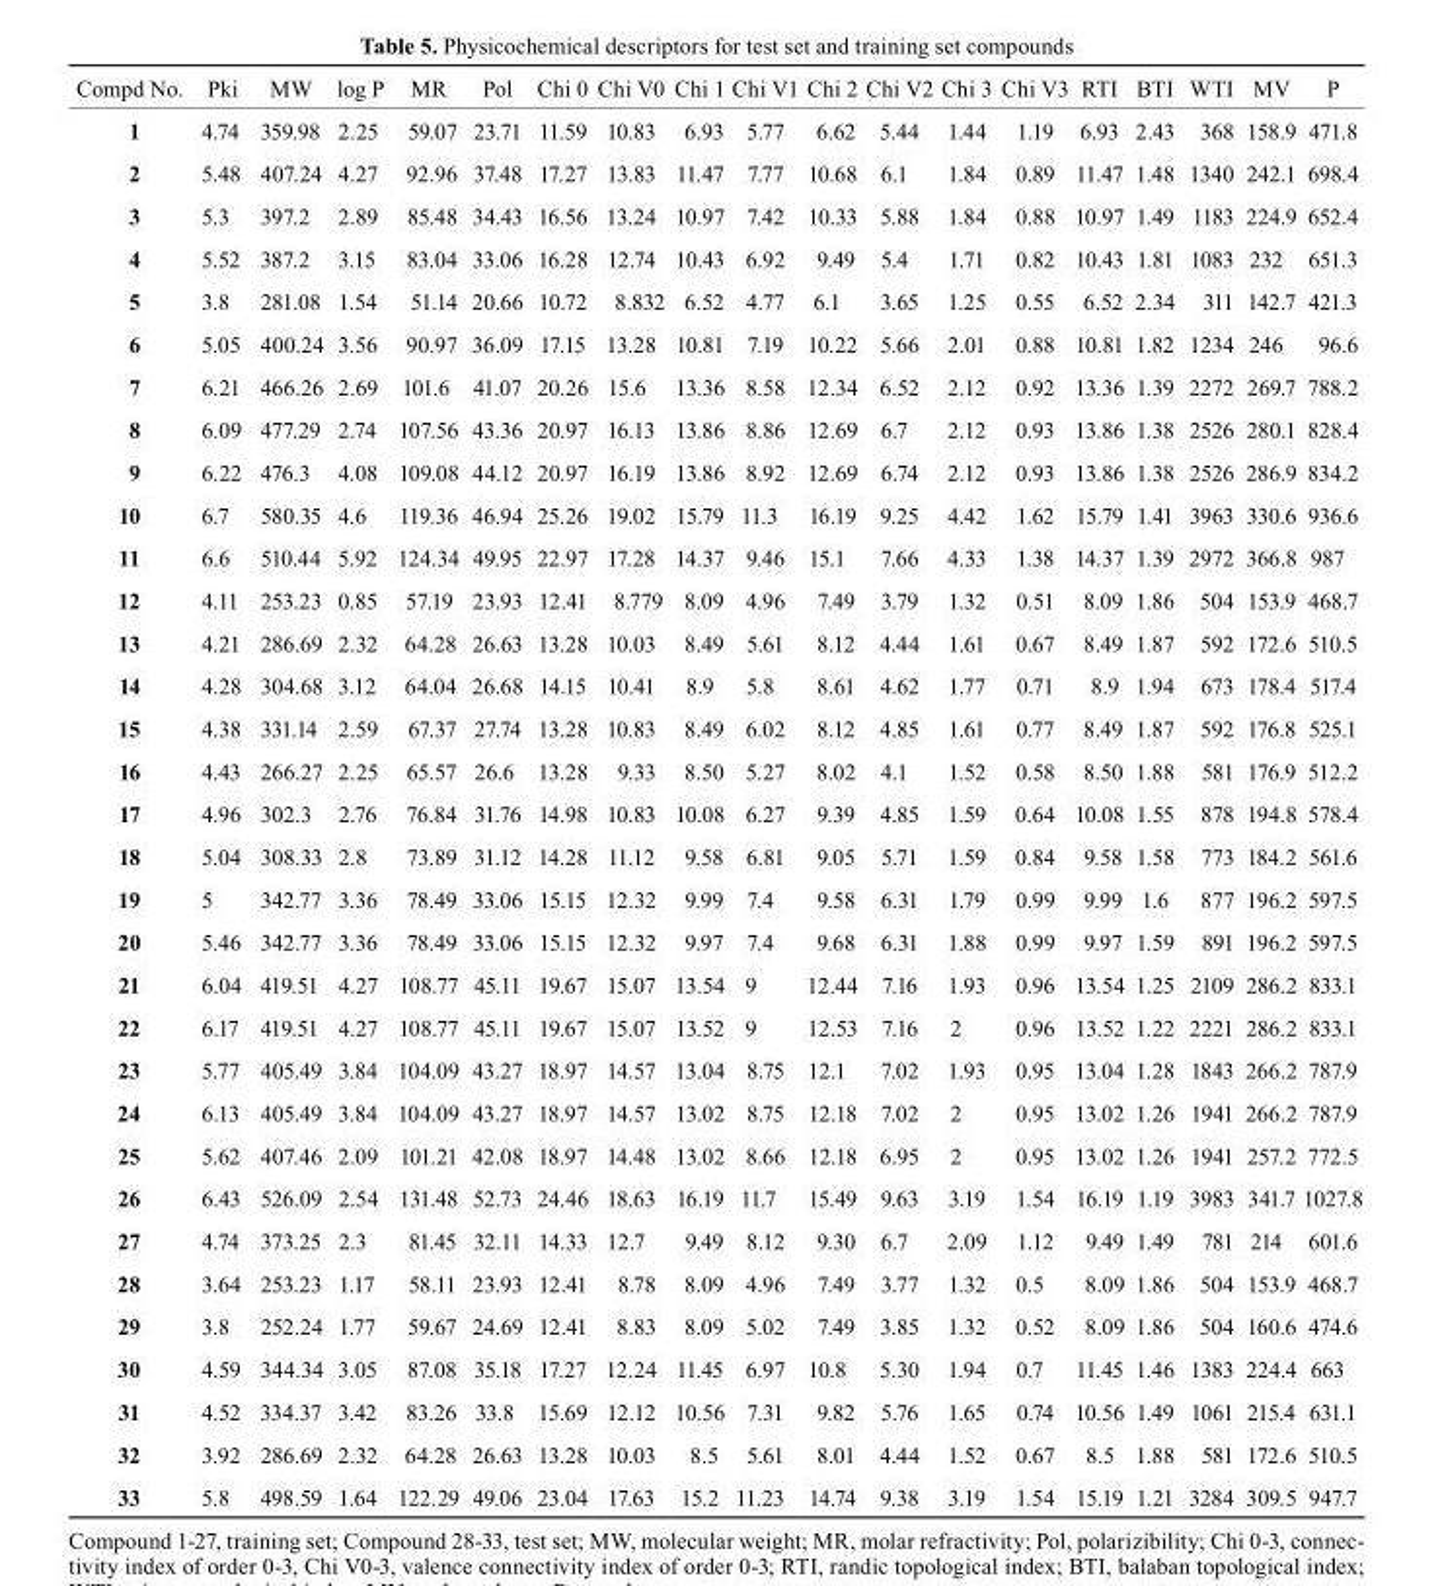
<table><thead><tr><td>Compd No.</td><td>Pki</td><td>MW</td><td>log P</td><td>MR</td><td>Pol</td><td>Chi 0</td><td>Chi V0</td><td>Chi 1</td><td>Chi V1</td><td>Chi 2</td><td>Chi V2</td><td>Chi 3</td><td>Chi V3</td><td>RTI</td><td>BTI</td><td>WTI</td><td>MV</td><td>P</td></tr></thead><tbody><tr><td>1</td><td>4.74</td><td>359.98</td><td>2.25</td><td>59.07</td><td>23.71</td><td>11.59</td><td>10.83</td><td>6.93</td><td>5.77</td><td>6.62</td><td>5.44</td><td>1.44</td><td>1.19</td><td>6.93</td><td>2.43</td><td>368</td><td>158.9</td><td>471.8</td></tr><tr><td>2</td><td>5.48</td><td>407.24</td><td>4.27</td><td>92.96</td><td>37.48</td><td>17.27</td><td>13.83</td><td>11.47</td><td>7.77</td><td>10.68</td><td>6.1</td><td>1.84</td><td>0.89</td><td>11.47</td><td>1.48</td><td>1340</td><td>242.1</td><td>698.4</td></tr><tr><td>3</td><td>5.3</td><td>397.2</td><td>2.89</td><td>85.48</td><td>34.43</td><td>16.56</td><td>13.24</td><td>10.97</td><td>7.42</td><td>10.33</td><td>5.88</td><td>1.84</td><td>0.88</td><td>10.97</td><td>1.49</td><td>1183</td><td>224.9</td><td>652.4</td></tr><tr><td>4</td><td>5.52</td><td>387.2</td><td>3.15</td><td>83.04</td><td>33.06</td><td>16.28</td><td>12.74</td><td>10.43</td><td>6.92</td><td>9.49</td><td>5.4</td><td>1.71</td><td>0.82</td><td>10.43</td><td>1.81</td><td>1083</td><td>232</td><td>651.3</td></tr><tr><td>5</td><td>3.8</td><td>281.08</td><td>1.54</td><td>51.14</td><td>20.66</td><td>10.72</td><td>8.832</td><td>6.52</td><td>4.77</td><td>6.1</td><td>3.65</td><td>1.25</td><td>0.55</td><td>6.52</td><td>2.34</td><td>311</td><td>142.7</td><td>421.3</td></tr><tr><td>6</td><td>5.05</td><td>400.24</td><td>3.56</td><td>90.97</td><td>36.09</td><td>17.15</td><td>13.28</td><td>10.81</td><td>7.19</td><td>10.22</td><td>5.66</td><td>2.01</td><td>0.88</td><td>10.81</td><td>1.82</td><td>1234</td><td>246</td><td>96.6</td></tr><tr><td>7</td><td>6.21</td><td>466.26</td><td>2.69</td><td>101.6</td><td>41.07</td><td>20.26</td><td>15.6</td><td>13.36</td><td>8.58</td><td>12.34</td><td>6.52</td><td>2.12</td><td>0.92</td><td>13.36</td><td>1.39</td><td>2272</td><td>269.7</td><td>788.2</td></tr><tr><td>8</td><td>6.09</td><td>477.29</td><td>2.74</td><td>107.56</td><td>43.36</td><td>20.97</td><td>16.13</td><td>13.86</td><td>8.86</td><td>12.69</td><td>6.7</td><td>2.12</td><td>0.93</td><td>13.86</td><td>1.38</td><td>2526</td><td>280.1</td><td>828.4</td></tr><tr><td>9</td><td>6.22</td><td>476.3</td><td>4.08</td><td>109.08</td><td>44.12</td><td>20.97</td><td>16.19</td><td>13.86</td><td>8.92</td><td>12.69</td><td>6.74</td><td>2.12</td><td>0.93</td><td>13.86</td><td>1.38</td><td>2526</td><td>286.9</td><td>834.2</td></tr><tr><td>10</td><td>6.7</td><td>580.35</td><td>4.6</td><td>119.36</td><td>46.94</td><td>25.26</td><td>19.02</td><td>15.79</td><td>11.3</td><td>16.19</td><td>9.25</td><td>4.42</td><td>1.62</td><td>15.79</td><td>1.41</td><td>3963</td><td>330.6</td><td>936.6</td></tr><tr><td>11</td><td>6.6</td><td>510.44</td><td>5.92</td><td>124.34</td><td>49.95</td><td>22.97</td><td>17.28</td><td>14.37</td><td>9.46</td><td>15.1</td><td>7.66</td><td>4.33</td><td>1.38</td><td>14.37</td><td>1.39</td><td>2972</td><td>366.8</td><td>987</td></tr><tr><td>12</td><td>4.11</td><td>253.23</td><td>0.85</td><td>57.19</td><td>23.93</td><td>12.41</td><td>8.779</td><td>8.09</td><td>4.96</td><td>7.49</td><td>3.79</td><td>1.32</td><td>0.51</td><td>8.09</td><td>1.86</td><td>504</td><td>153.9</td><td>468.7</td></tr><tr><td>13</td><td>4.21</td><td>286.69</td><td>2.32</td><td>64.28</td><td>26.63</td><td>13.28</td><td>10.03</td><td>8.49</td><td>5.61</td><td>8.12</td><td>4.44</td><td>1.61</td><td>0.67</td><td>8.49</td><td>1.87</td><td>592</td><td>172.6</td><td>510.5</td></tr><tr><td>14</td><td>4.28</td><td>304.68</td><td>3.12</td><td>64.04</td><td>26.68</td><td>14.15</td><td>10.41</td><td>8.9</td><td>5.8</td><td>8.61</td><td>4.62</td><td>1.77</td><td>0.71</td><td>8.9</td><td>1.94</td><td>673</td><td>178.4</td><td>517.4</td></tr><tr><td>15</td><td>4.38</td><td>331.14</td><td>2.59</td><td>67.37</td><td>27.74</td><td>13.28</td><td>10.83</td><td>8.49</td><td>6.02</td><td>8.12</td><td>4.85</td><td>1.61</td><td>0.77</td><td>8.49</td><td>1.87</td><td>592</td><td>176.8</td><td>525.1</td></tr><tr><td>16</td><td>4.43</td><td>266.27</td><td>2.25</td><td>65.57</td><td>26.6</td><td>13.28</td><td>9.33</td><td>8.50</td><td>5.27</td><td>8.02</td><td>4.1</td><td>1.52</td><td>0.58</td><td>8.50</td><td>1.88</td><td>581</td><td>176.9</td><td>512.2</td></tr><tr><td>17</td><td>4.96</td><td>302.3</td><td>2.76</td><td>76.84</td><td>31.76</td><td>14.98</td><td>10.83</td><td>10.08</td><td>6.27</td><td>9.39</td><td>4.85</td><td>1.59</td><td>0.64</td><td>10.08</td><td>1.55</td><td>878</td><td>194.8</td><td>578.4</td></tr><tr><td>18</td><td>5.04</td><td>308.33</td><td>2.8</td><td>73.89</td><td>31.12</td><td>14.28</td><td>11.12</td><td>9.58</td><td>6.81</td><td>9.05</td><td>5.71</td><td>1.59</td><td>0.84</td><td>9.58</td><td>1.58</td><td>773</td><td>184.2</td><td>561.6</td></tr><tr><td>19</td><td>5</td><td>342.77</td><td>3.36</td><td>78.49</td><td>33.06</td><td>15.15</td><td>12.32</td><td>9.99</td><td>7.4</td><td>9.58</td><td>6.31</td><td>1.79</td><td>0.99</td><td>9.99</td><td>1.6</td><td>877</td><td>196.2</td><td>597.5</td></tr><tr><td>20</td><td>5.46</td><td>342.77</td><td>3.36</td><td>78.49</td><td>33.06</td><td>15.15</td><td>12.32</td><td>9.97</td><td>7.4</td><td>9.68</td><td>6.31</td><td>1.88</td><td>0.99</td><td>9.97</td><td>1.59</td><td>891</td><td>196.2</td><td>597.5</td></tr><tr><td>21</td><td>6.04</td><td>419.51</td><td>4.27</td><td>108.77</td><td>45.11</td><td>19.67</td><td>15.07</td><td>13.54</td><td>9</td><td>12.44</td><td>7.16</td><td>1.93</td><td>0.96</td><td>13.54</td><td>1.25</td><td>2109</td><td>286.2</td><td>833.1</td></tr><tr><td>22</td><td>6.17</td><td>419.51</td><td>4.27</td><td>108.77</td><td>45.11</td><td>19.67</td><td>15.07</td><td>13.52</td><td>9</td><td>12.53</td><td>7.16</td><td>2</td><td>0.96</td><td>13.52</td><td>1.22</td><td>2221</td><td>286.2</td><td>833.1</td></tr><tr><td>23</td><td>5.77</td><td>405.49</td><td>3.84</td><td>104.09</td><td>43.27</td><td>18.97</td><td>14.57</td><td>13.04</td><td>8.75</td><td>12.1</td><td>7.02</td><td>1.93</td><td>0.95</td><td>13.04</td><td>1.28</td><td>1843</td><td>266.2</td><td>787.9</td></tr><tr><td>24</td><td>6.13</td><td>405.49</td><td>3.84</td><td>104.09</td><td>43.27</td><td>18.97</td><td>14.57</td><td>13.02</td><td>8.75</td><td>12.18</td><td>7.02</td><td>2</td><td>0.95</td><td>13.02</td><td>1.26</td><td>1941</td><td>266.2</td><td>787.9</td></tr><tr><td>25</td><td>5.62</td><td>407.46</td><td>2.09</td><td>101.21</td><td>42.08</td><td>18.97</td><td>14.48</td><td>13.02</td><td>8.66</td><td>12.18</td><td>6.95</td><td>2</td><td>0.95</td><td>13.02</td><td>1.26</td><td>1941</td><td>257.2</td><td>772.5</td></tr><tr><td>26</td><td>6.43</td><td>526.09</td><td>2.54</td><td>131.48</td><td>52.73</td><td>24.46</td><td>18.63</td><td>16.19</td><td>11.7</td><td>15.49</td><td>9.63</td><td>3.19</td><td>1.54</td><td>16.19</td><td>1.19</td><td>3983</td><td>341.7</td><td>1027.8</td></tr><tr><td>27</td><td>4.74</td><td>373.25</td><td>2.3</td><td>81.45</td><td>32.11</td><td>14.33</td><td>12.7</td><td>9.49</td><td>8.12</td><td>9.30</td><td>6.7</td><td>2.09</td><td>1.12</td><td>9.49</td><td>1.49</td><td>781</td><td>214</td><td>601.6</td></tr><tr><td>28</td><td>3.64</td><td>253.23</td><td>1.17</td><td>58.11</td><td>23.93</td><td>12.41</td><td>8.78</td><td>8.09</td><td>4.96</td><td>7.49</td><td>3.77</td><td>1.32</td><td>0.5</td><td>8.09</td><td>1.86</td><td>504</td><td>153.9</td><td>468.7</td></tr><tr><td>29</td><td>3.8</td><td>252.24</td><td>1.77</td><td>59.67</td><td>24.69</td><td>12.41</td><td>8.83</td><td>8.09</td><td>5.02</td><td>7.49</td><td>3.85</td><td>1.32</td><td>0.52</td><td>8.09</td><td>1.86</td><td>504</td><td>160.6</td><td>474.6</td></tr><tr><td>30</td><td>4.59</td><td>344.34</td><td>3.05</td><td>87.08</td><td>35.18</td><td>17.27</td><td>12.24</td><td>11.45</td><td>6.97</td><td>10.8</td><td>5.30</td><td>1.94</td><td>0.7</td><td>11.45</td><td>1.46</td><td>1383</td><td>224.4</td><td>663</td></tr><tr><td>31</td><td>4.52</td><td>334.37</td><td>3.42</td><td>83.26</td><td>33.8</td><td>15.69</td><td>12.12</td><td>10.56</td><td>7.31</td><td>9.82</td><td>5.76</td><td>1.65</td><td>0.74</td><td>10.56</td><td>1.49</td><td>1061</td><td>215.4</td><td>631.1</td></tr><tr><td>32</td><td>3.92</td><td>286.69</td><td>2.32</td><td>64.28</td><td>26.63</td><td>13.28</td><td>10.03</td><td>8.5</td><td>5.61</td><td>8.01</td><td>4.44</td><td>1.52</td><td>0.67</td><td>8.5</td><td>1.88</td><td>581</td><td>172.6</td><td>510.5</td></tr><tr><td>33</td><td>5.8</td><td>498.59</td><td>1.64</td><td>122.29</td><td>49.06</td><td>23.04</td><td>17.63</td><td>15.2</td><td>11.23</td><td>14.74</td><td>9.38</td><td>3.19</td><td>1.54</td><td>15.19</td><td>1.21</td><td>3284</td><td>309.5</td><td>947.7</td></tr></tbody></table>